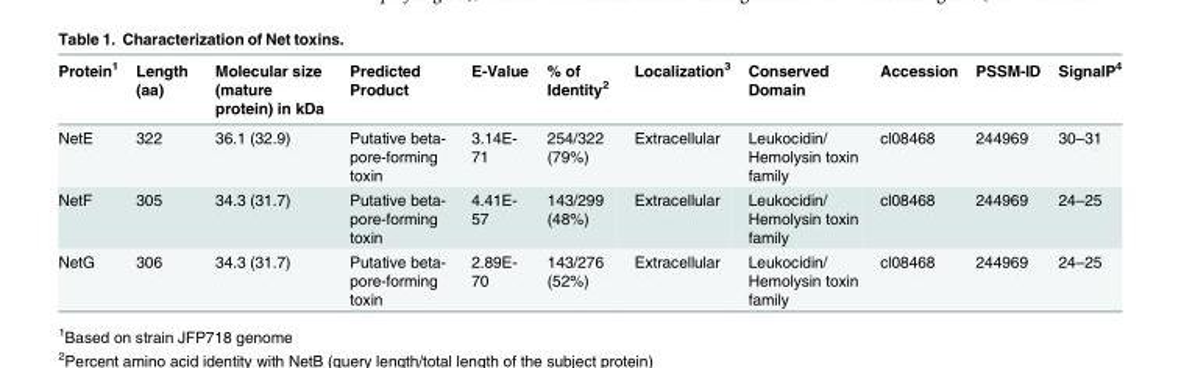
<table><thead><tr><td>Protein<sup>1</sup></td><td>Length (aa)</td><td>Molecular size (mature protein) in kDa</td><td>Predicted Product</td><td>E-Value</td><td>% of Identity<sup>2</sup></td><td>Localization<sup>3</sup></td><td>Conserved Domain</td><td>Accession</td><td>PSSM-ID</td><td>SignalP<sup>4</sup></td></tr></thead><tbody><tr><td>NetE</td><td>322</td><td>36.1 (32.9)</td><td>Putative beta- pore-forming toxin</td><td>3.14E- 71</td><td>254/322 (79%)</td><td>Extracellular</td><td>Leukocidin/ Hemolysin toxin family</td><td>cl08468</td><td>244969</td><td>30–31</td></tr><tr><td>NetF</td><td>305</td><td>34.3 (31.7)</td><td>Putative beta- pore-forming toxin</td><td>4.41E- 57</td><td>143/299 (48%)</td><td>Extracellular</td><td>Leukocidin/ Hemolysin toxin family</td><td>cl08468</td><td>244969</td><td>24–25</td></tr><tr><td>NetG</td><td>306</td><td>34.3 (31.7)</td><td>Putative beta- pore-forming toxin</td><td>2.89E- 70</td><td>143/276 (52%)</td><td>Extracellular</td><td>Leukocidin/ Hemolysin toxin family</td><td>cl08468</td><td>244969</td><td>24–25</td></tr></tbody></table>